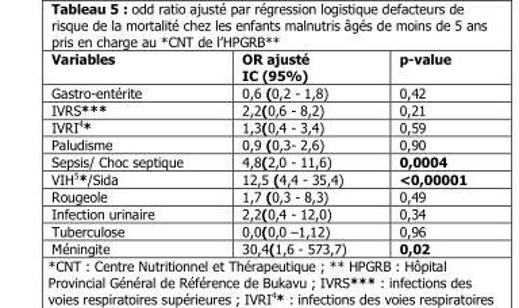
<table><thead><tr><td>Variables</td><td>OR ajusté IC (95%)</td><td>p-value</td></tr></thead><tbody><tr><td>Gastro-entérite</td><td>0,6 (0,2 - 1,8)</td><td>0,42</td></tr><tr><td>IVRS***</td><td>2,2(0,6 - 8,2)</td><td>0,21</td></tr><tr><td>IVRI4*</td><td>1,3(0,4 - 3,4)</td><td>0,59</td></tr><tr><td>Paludisme</td><td>0,9 (0,3- 2,6)</td><td>0,90</td></tr><tr><td>Sepsis/ Choc septique</td><td>4,8(2,0 - 11,6)</td><td>0,0004</td></tr><tr><td>VIH5*/Sida</td><td>12,5 (4,4 - 35,4)</td><td>˂0,00001</td></tr><tr><td>Rougeole</td><td>1,7 (0,3 - 8,3)</td><td>0,49</td></tr><tr><td>Infection urinaire</td><td>2,2(0,4 - 12,0)</td><td>0,34</td></tr><tr><td>Tuberculose</td><td>0,0(0,0 Ŕ1,12)</td><td>0,96</td></tr><tr><td>Méningite</td><td>30,4(1,6 - 573,7)</td><td>0,02</td></tr></tbody></table>